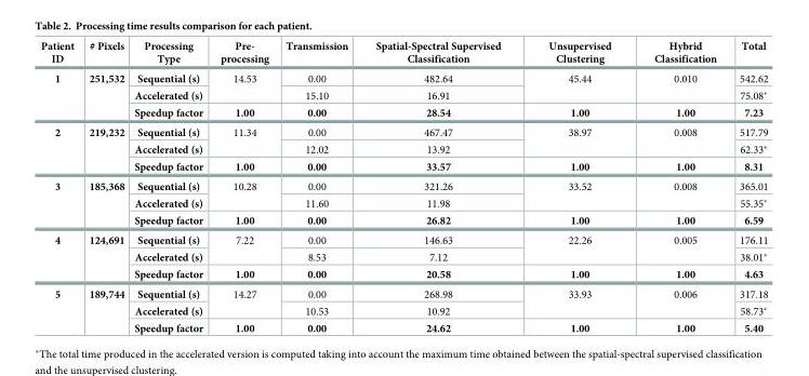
<table><thead><tr><td>Patient ID</td><td># Pixels</td><td>Processing Type</td><td>Pre- processing</td><td>Transmission</td><td>Spatial-Spectral Supervised Classification</td><td>Unsupervised Clustering</td><td>Hybrid Classification</td><td>Total</td></tr></thead><tbody><tr><td rowspan="3">1</td><td rowspan="3">251,532</td><td>Sequential (s)</td><td rowspan="2">14.53</td><td>0.00</td><td>482.64</td><td rowspan="2">45.44</td><td rowspan="2">0.010</td><td>542.62</td></tr><tr><td>Accelerated (s)</td><td>15.10</td><td>16.91</td><td>75.08*</td></tr><tr><td>Speedup factor</td><td>1.00</td><td>0.00</td><td>28.54</td><td>1.00</td><td>1.00</td><td>7.23</td></tr><tr><td rowspan="3">2</td><td rowspan="3">219,232</td><td>Sequential (s)</td><td rowspan="2">11.34</td><td>0.00</td><td>467.47</td><td rowspan="2">38.97</td><td rowspan="2">0.008</td><td>517.79</td></tr><tr><td>Accelerated (s)</td><td>12.02</td><td>13.92</td><td>62.33*</td></tr><tr><td>Speedup factor</td><td>1.00</td><td>0.00</td><td>33.57</td><td>1.00</td><td>1.00</td><td>8.31</td></tr><tr><td rowspan="3">3</td><td rowspan="3">185,368</td><td>Sequential (s)</td><td rowspan="2">10.28</td><td>0.00</td><td>321.26</td><td rowspan="2">33.52</td><td rowspan="2">0.008</td><td>365.01</td></tr><tr><td>Accelerated (s)</td><td>11.60</td><td>11.98</td><td>55.35*</td></tr><tr><td>Speedup factor</td><td>1.00</td><td>0.00</td><td>26.82</td><td>1.00</td><td>1.00</td><td>6.59</td></tr><tr><td rowspan="3">4</td><td rowspan="3">124,691</td><td>Sequential (s)</td><td rowspan="2">7.22</td><td>0.00</td><td>146.63</td><td rowspan="2">22.26</td><td rowspan="2">0.005</td><td>176.11</td></tr><tr><td>Accelerated (s)</td><td>8.53</td><td>7.12</td><td>38.01*</td></tr><tr><td>Speedup factor</td><td>1.00</td><td>0.00</td><td>20.58</td><td>1.00</td><td>1.00</td><td>4.63</td></tr><tr><td rowspan="3">5</td><td rowspan="3">189,744</td><td>Sequential (s)</td><td rowspan="2">14.27</td><td>0.00</td><td>268.98</td><td rowspan="2">33.93</td><td rowspan="2">0.006</td><td>317.18</td></tr><tr><td>Accelerated (s)</td><td>10.53</td><td>10.92</td><td>58.73*</td></tr><tr><td>Speedup factor</td><td>1.00</td><td>0.00</td><td>24.62</td><td>1.00</td><td>1.00</td><td>5.40</td></tr></tbody></table>